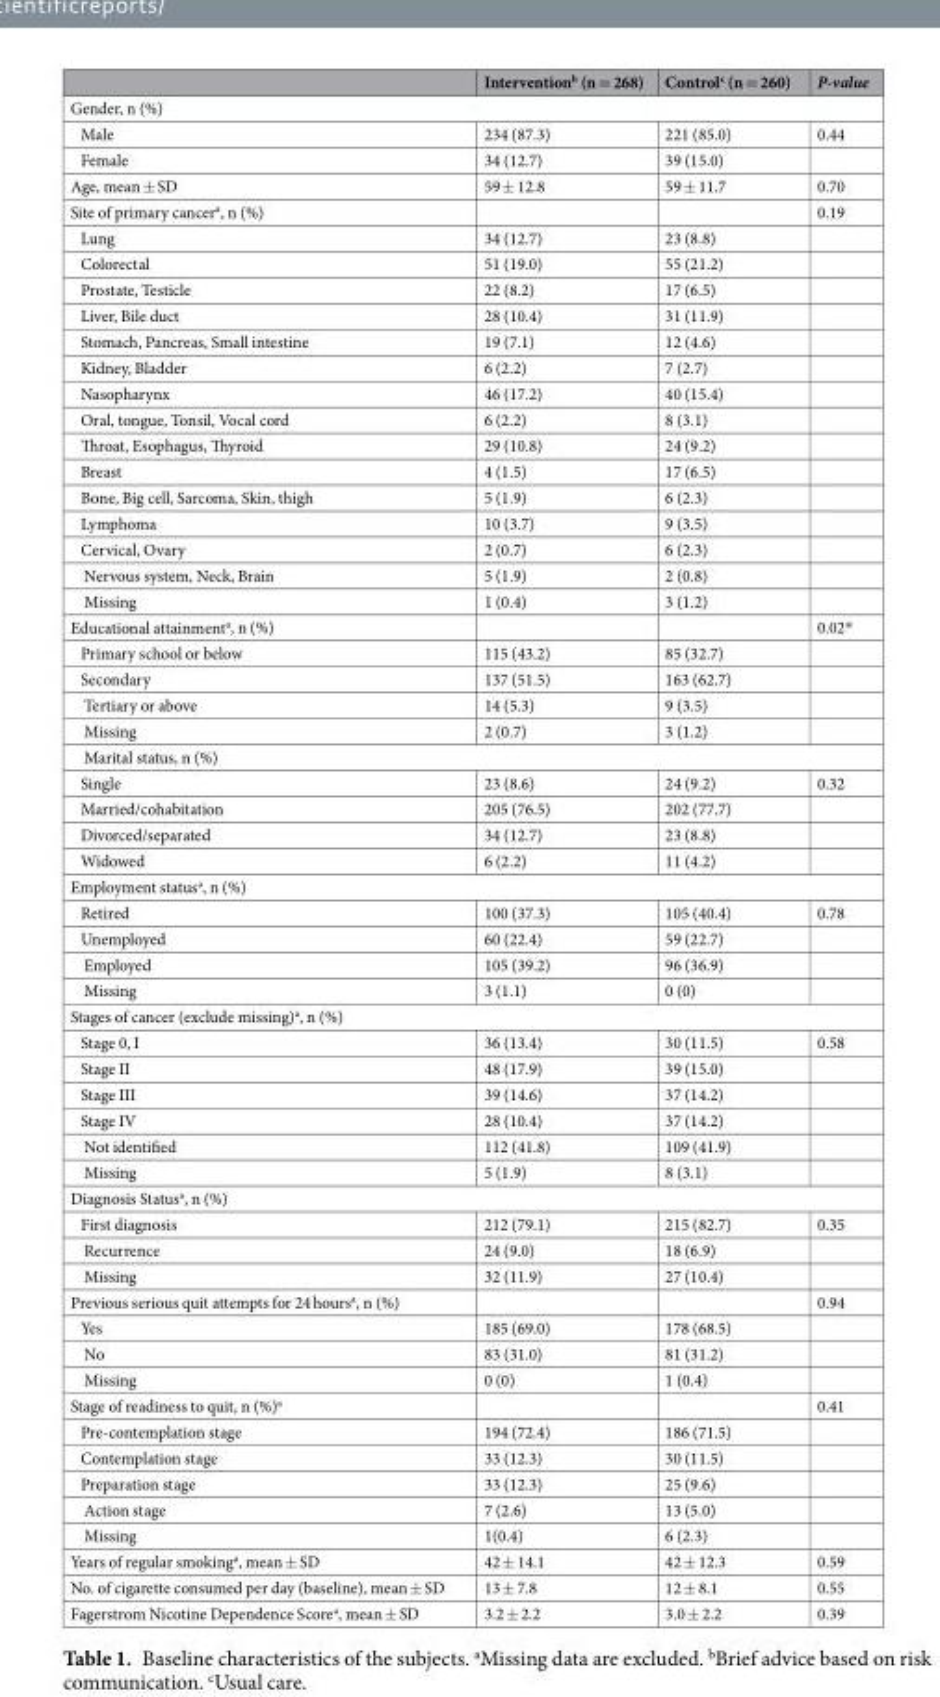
<table><thead><tr><td></td><td>Intervention<sup>b</sup> (n = 268)</td><td>Control<sup>c</sup> (n = 260)</td><td>P-value</td></tr></thead><tbody><tr><td colspan="4">Gender, n (%)</td></tr><tr><td>Male</td><td>234 (87.3)</td><td>221 (85.0)</td><td>0.44</td></tr><tr><td>Female</td><td>34 (12.7)</td><td>39 (15.0)</td><td></td></tr><tr><td>Age, mean ± SD</td><td>59 ± 12.8</td><td>59 ± 11.7</td><td>0.70</td></tr><tr><td>Site of primary cancer<sup>a</sup>, n (%)</td><td></td><td></td><td>0.19</td></tr><tr><td>Lung</td><td>34 (12.7)</td><td>23 (8.8)</td><td></td></tr><tr><td>Colorectal</td><td>51 (19.0)</td><td>55 (21.2)</td><td></td></tr><tr><td>Prostate, Testicle</td><td>22 (8.2)</td><td>17 (6.5)</td><td></td></tr><tr><td>Liver, Bile duct</td><td>28 (10.4)</td><td>31 (11.9)</td><td></td></tr><tr><td>Stomach, Pancreas, Small intestine</td><td>19 (7.1)</td><td>12 (4.6)</td><td></td></tr><tr><td>Kidney, Bladder</td><td>6 (2.2)</td><td>7 (2.7)</td><td></td></tr><tr><td>Nasopharynx</td><td>46 (17.2)</td><td>40 (15.4)</td><td></td></tr><tr><td>Oral, tongue, Tonsil, Vocal cord</td><td>6 (2.2)</td><td>8 (3.1)</td><td></td></tr><tr><td>Throat, Esophagus, Thyroid</td><td>29 (10.8)</td><td>24 (9.2)</td><td></td></tr><tr><td>Breast</td><td>4 (1.5)</td><td>17 (6.5)</td><td></td></tr><tr><td>Bone, Big cell, Sarcoma, Skin, thigh</td><td>5 (1.9)</td><td>6 (2.3)</td><td></td></tr><tr><td>Lymphoma</td><td>10 (3.7)</td><td>9 (3.5)</td><td></td></tr><tr><td>Cervical, Ovary</td><td>2 (0.7)</td><td>6 (2.3)</td><td></td></tr><tr><td>Nervous system, Neck, Brain</td><td>5 (1.9)</td><td>2 (0.8)</td><td></td></tr><tr><td>Missing</td><td>1 (0.4)</td><td>3 (1.2)</td><td></td></tr><tr><td>Educational attainment<sup>a</sup>, n (%)</td><td></td><td></td><td>0.02*</td></tr><tr><td>Primary school or below</td><td>115 (43.2)</td><td>85 (32.7)</td><td></td></tr><tr><td>Secondary</td><td>137 (51.5)</td><td>163 (62.7)</td><td></td></tr><tr><td>Tertiary or above</td><td>14 (5.3)</td><td>9 (3.5)</td><td></td></tr><tr><td>Missing</td><td>2 (0.7)</td><td>3 (1.2)</td><td></td></tr><tr><td colspan="4">Marital status, n (%)</td></tr><tr><td>Single</td><td>23 (8.6)</td><td>24 (9.2)</td><td>0.32</td></tr><tr><td>Married/cohabitation</td><td>205 (76.5)</td><td>202 (77.7)</td><td></td></tr><tr><td>Divorced/separated</td><td>34 (12.7)</td><td>23 (8.8)</td><td></td></tr><tr><td>Widowed</td><td>6 (2.2)</td><td>11 (4.2)</td><td></td></tr><tr><td colspan="4">Employment status<sup>a</sup>, n (%)</td></tr><tr><td>Retired</td><td>100 (37.3)</td><td>105 (40.4)</td><td>0.78</td></tr><tr><td>Unemployed</td><td>60 (22.4)</td><td>59 (22.7)</td><td></td></tr><tr><td>Employed</td><td>105 (39.2)</td><td>96 (36.9)</td><td></td></tr><tr><td>Missing</td><td>3 (1.1)</td><td>0 (0)</td><td></td></tr><tr><td colspan="4">Stages of cancer (exclude missing)<sup>a</sup>, n (%)</td></tr><tr><td>Stage 0, I</td><td>36 (13.4)</td><td>30 (11.5)</td><td>0.58</td></tr><tr><td>Stage II</td><td>48 (17.9)</td><td>39 (15.0)</td><td></td></tr><tr><td>Stage III</td><td>39 (14.6)</td><td>37 (14.2)</td><td></td></tr><tr><td>Stage IV</td><td>28 (10.4)</td><td>37 (14.2)</td><td></td></tr><tr><td>Not identified</td><td>112 (41.8)</td><td>109 (41.9)</td><td></td></tr><tr><td>Missing</td><td>5 (1.9)</td><td>8 (3.1)</td><td></td></tr><tr><td colspan="4">Diagnosis Status<sup>a</sup>, n (%)</td></tr><tr><td>First diagnosis</td><td>212 (79.1)</td><td>215 (82.7)</td><td>0.35</td></tr><tr><td>Recurrence</td><td>24 (9.0)</td><td>18 (6.9)</td><td></td></tr><tr><td>Missing</td><td>32 (11.9)</td><td>27 (10.4)</td><td></td></tr><tr><td>Previous serious quit attempts for 24 hours<sup>a</sup>, n (%)</td><td></td><td></td><td>0.94</td></tr><tr><td>Yes</td><td>185 (69.0)</td><td>178 (68.5)</td><td></td></tr><tr><td>No</td><td>83 (31.0)</td><td>81 (31.2)</td><td></td></tr><tr><td>Missing</td><td>0 (0)</td><td>1 (0.4)</td><td></td></tr><tr><td>Stage of readiness to quit, n (%)<sup>a</sup></td><td></td><td></td><td>0.41</td></tr><tr><td>Pre-contemplation stage</td><td>194 (72.4)</td><td>186 (71.5)</td><td></td></tr><tr><td>Contemplation stage</td><td>33 (12.3)</td><td>30 (11.5)</td><td></td></tr><tr><td>Preparation stage</td><td>33 (12.3)</td><td>25 (9.6)</td><td></td></tr><tr><td>Action stage</td><td>7 (2.6)</td><td>13 (5.0)</td><td></td></tr><tr><td>Missing</td><td>1(0.4)</td><td>6 (2.3)</td><td></td></tr><tr><td>Years of regular smoking<sup>a</sup>, mean ± SD</td><td>42 ± 14.1</td><td>42 ± 12.3</td><td>0.59</td></tr><tr><td>No. of cigarette consumed per day (baseline), mean ± SD</td><td>13 ± 7.8</td><td>12 ± 8.1</td><td>0.55</td></tr><tr><td>Fagerstrom Nicotine Dependence Score<sup>a</sup>, mean ± SD</td><td>3.2 ± 2.2</td><td>3.0 ± 2.2</td><td>0.39</td></tr></tbody></table>